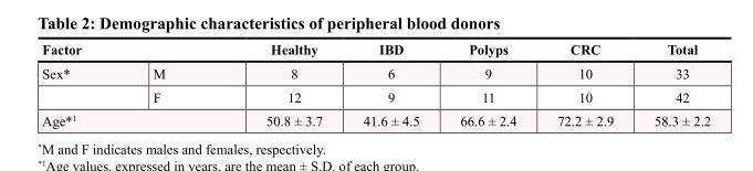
<table><thead><tr><td colspan="2">Factor</td><td rowspan="2">Healthy 8</td><td rowspan="2">IBD 6</td><td rowspan="2">Polyps 9</td><td rowspan="2">CRC 10</td><td rowspan="2">Total 33</td></tr><tr><td>Sex*</td><td>M</td></tr></thead><tbody><tr><td></td><td>F</td><td>12</td><td>9</td><td>11</td><td>10</td><td>42</td></tr><tr><td colspan="2">Age*<sup>1</sup></td><td>50.8 ± 3.7</td><td>41.6 ± 4.5</td><td>66.6 ± 2.4</td><td>72.2 ± 2.9</td><td>58.3 ± 2.2</td></tr></tbody></table>